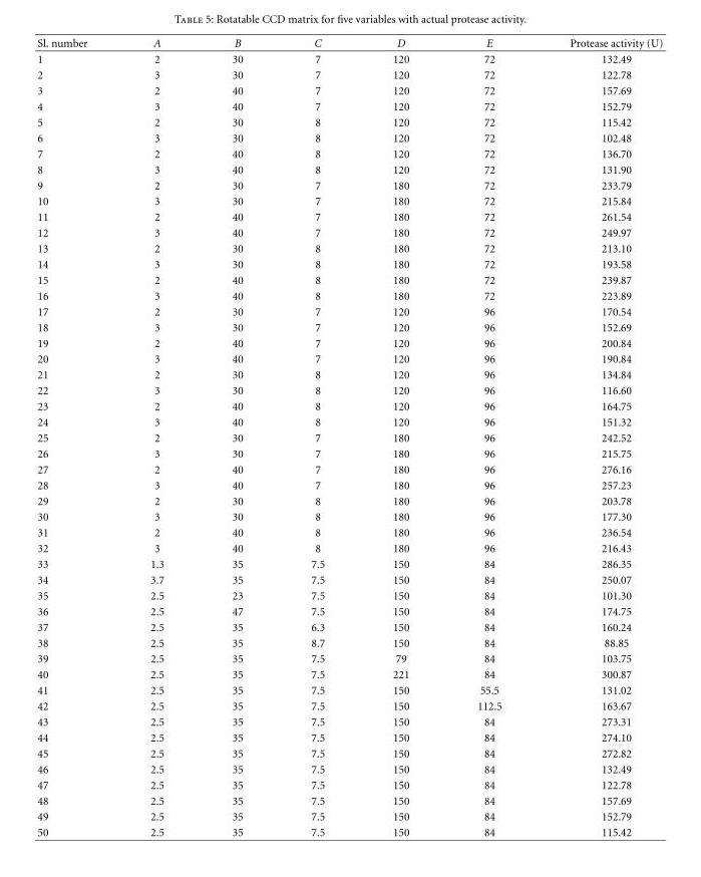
<table><thead><tr><td>Sl. number</td><td>A</td><td>B</td><td>C</td><td>D</td><td>E</td><td>Protease activity (U)</td></tr></thead><tbody><tr><td>1</td><td>2</td><td>30</td><td>7</td><td>120</td><td>72</td><td>132.49</td></tr><tr><td>2</td><td>3</td><td>30</td><td>7</td><td>120</td><td>72</td><td>122.78</td></tr><tr><td>3</td><td>2</td><td>40</td><td>7</td><td>120</td><td>72</td><td>157.69</td></tr><tr><td>4</td><td>3</td><td>40</td><td>7</td><td>120</td><td>72</td><td>152.79</td></tr><tr><td>5</td><td>2</td><td>30</td><td>8</td><td>120</td><td>72</td><td>115.42</td></tr><tr><td>6</td><td>3</td><td>30</td><td>8</td><td>120</td><td>72</td><td>102.48</td></tr><tr><td>7</td><td>2</td><td>40</td><td>8</td><td>120</td><td>72</td><td>136.70</td></tr><tr><td>8</td><td>3</td><td>40</td><td>8</td><td>120</td><td>72</td><td>131.90</td></tr><tr><td>9</td><td>2</td><td>30</td><td>7</td><td>180</td><td>72</td><td>233.79</td></tr><tr><td>10</td><td>3</td><td>30</td><td>7</td><td>180</td><td>72</td><td>215.84</td></tr><tr><td>11</td><td>2</td><td>40</td><td>7</td><td>180</td><td>72</td><td>261.54</td></tr><tr><td>12</td><td>3</td><td>40</td><td>7</td><td>180</td><td>72</td><td>249.97</td></tr><tr><td>13</td><td>2</td><td>30</td><td>8</td><td>180</td><td>72</td><td>213.10</td></tr><tr><td>14</td><td>3</td><td>30</td><td>8</td><td>180</td><td>72</td><td>193.58</td></tr><tr><td>15</td><td>2</td><td>40</td><td>8</td><td>180</td><td>72</td><td>239.87</td></tr><tr><td>16</td><td>3</td><td>40</td><td>8</td><td>180</td><td>72</td><td>223.89</td></tr><tr><td>17</td><td>2</td><td>30</td><td>7</td><td>120</td><td>96</td><td>170.54</td></tr><tr><td>18</td><td>3</td><td>30</td><td>7</td><td>120</td><td>96</td><td>152.69</td></tr><tr><td>19</td><td>2</td><td>40</td><td>7</td><td>120</td><td>96</td><td>200.84</td></tr><tr><td>20</td><td>3</td><td>40</td><td>7</td><td>120</td><td>96</td><td>190.84</td></tr><tr><td>21</td><td>2</td><td>30</td><td>8</td><td>120</td><td>96</td><td>134.84</td></tr><tr><td>22</td><td>3</td><td>30</td><td>8</td><td>120</td><td>96</td><td>116.60</td></tr><tr><td>23</td><td>2</td><td>40</td><td>8</td><td>120</td><td>96</td><td>164.75</td></tr><tr><td>24</td><td>3</td><td>40</td><td>8</td><td>120</td><td>96</td><td>151.32</td></tr><tr><td>25</td><td>2</td><td>30</td><td>7</td><td>180</td><td>96</td><td>242.52</td></tr><tr><td>26</td><td>3</td><td>30</td><td>7</td><td>180</td><td>96</td><td>215.75</td></tr><tr><td>27</td><td>2</td><td>40</td><td>7</td><td>180</td><td>96</td><td>276.16</td></tr><tr><td>28</td><td>3</td><td>40</td><td>7</td><td>180</td><td>96</td><td>257.23</td></tr><tr><td>29</td><td>2</td><td>30</td><td>8</td><td>180</td><td>96</td><td>203.78</td></tr><tr><td>30</td><td>3</td><td>30</td><td>8</td><td>180</td><td>96</td><td>177.30</td></tr><tr><td>31</td><td>2</td><td>40</td><td>8</td><td>180</td><td>96</td><td>236.54</td></tr><tr><td>32</td><td>3</td><td>40</td><td>8</td><td>180</td><td>96</td><td>216.43</td></tr><tr><td>33</td><td>1.3</td><td>35</td><td>7.5</td><td>150</td><td>84</td><td>286.35</td></tr><tr><td>34</td><td>3.7</td><td>35</td><td>7.5</td><td>150</td><td>84</td><td>250.07</td></tr><tr><td>35</td><td>2.5</td><td>23</td><td>7.5</td><td>150</td><td>84</td><td>101.30</td></tr><tr><td>36</td><td>2.5</td><td>47</td><td>7.5</td><td>150</td><td>84</td><td>174.75</td></tr><tr><td>37</td><td>2.5</td><td>35</td><td>6.3</td><td>150</td><td>84</td><td>160.24</td></tr><tr><td>38</td><td>2.5</td><td>35</td><td>8.7</td><td>150</td><td>84</td><td>88.85</td></tr><tr><td>39</td><td>2.5</td><td>35</td><td>7.5</td><td>79</td><td>84</td><td>103.75</td></tr><tr><td>40</td><td>2.5</td><td>35</td><td>7.5</td><td>221</td><td>84</td><td>300.87</td></tr><tr><td>41</td><td>2.5</td><td>35</td><td>7.5</td><td>150</td><td>55.5</td><td>131.02</td></tr><tr><td>42</td><td>2.5</td><td>35</td><td>7.5</td><td>150</td><td>112.5</td><td>163.67</td></tr><tr><td>43</td><td>2.5</td><td>35</td><td>7.5</td><td>150</td><td>84</td><td>273.31</td></tr><tr><td>44</td><td>2.5</td><td>35</td><td>7.5</td><td>150</td><td>84</td><td>274.10</td></tr><tr><td>45</td><td>2.5</td><td>35</td><td>7.5</td><td>150</td><td>84</td><td>272.82</td></tr><tr><td>46</td><td>2.5</td><td>35</td><td>7.5</td><td>150</td><td>84</td><td>132.49</td></tr><tr><td>47</td><td>2.5</td><td>35</td><td>7.5</td><td>150</td><td>84</td><td>122.78</td></tr><tr><td>48</td><td>2.5</td><td>35</td><td>7.5</td><td>150</td><td>84</td><td>157.69</td></tr><tr><td>49</td><td>2.5</td><td>35</td><td>7.5</td><td>150</td><td>84</td><td>152.79</td></tr><tr><td>50</td><td>2.5</td><td>35</td><td>7.5</td><td>150</td><td>84</td><td>115.42</td></tr></tbody></table>